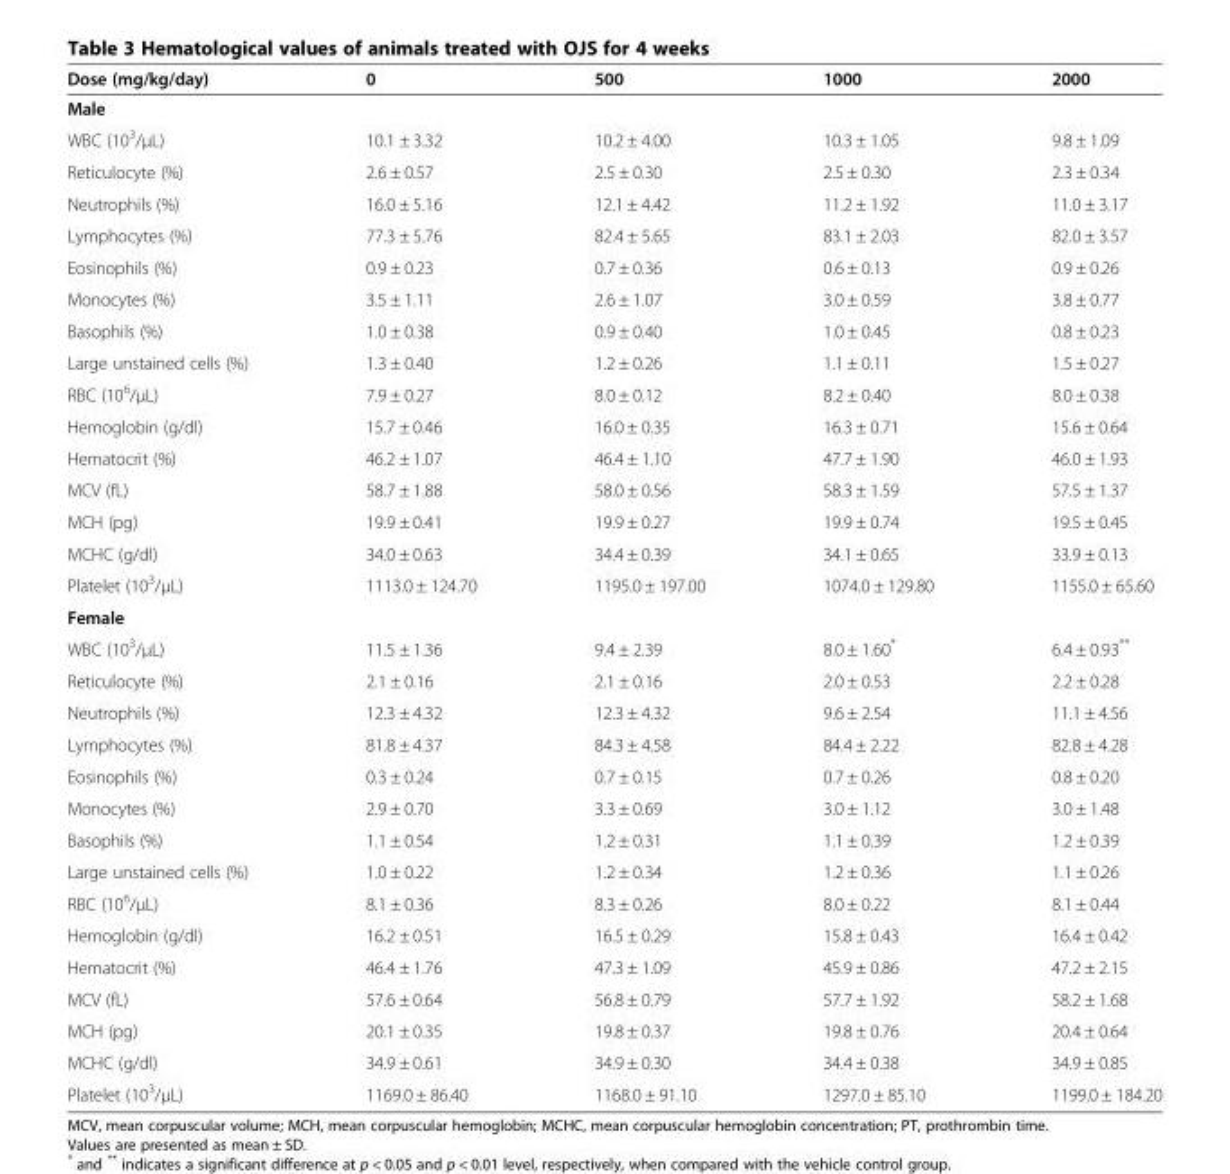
<table><thead><tr><td>Dose (mg/kg/day)</td><td>0</td><td>500</td><td>1000</td><td>2000</td></tr></thead><tbody><tr><td colspan="5">Male</td></tr><tr><td>WBC (10<sup>3</sup>/μL)</td><td>10.1 ± 3.32</td><td>10.2 ± 4.00</td><td>10.3 ± 1.05</td><td>9.8 ± 1.09</td></tr><tr><td>Reticulocyte (%)</td><td>2.6 ± 0.57</td><td>2.5 ± 0.30</td><td>2.5 ± 0.30</td><td>2.3 ± 0.34</td></tr><tr><td>Neutrophils (%)</td><td>16.0 ± 5.16</td><td>12.1 ± 4.42</td><td>11.2 ± 1.92</td><td>11.0 ± 3.17</td></tr><tr><td>Lymphocytes (%)</td><td>77.3 ± 5.76</td><td>82.4 ± 5.65</td><td>83.1 ± 2.03</td><td>82.0 ± 3.57</td></tr><tr><td>Eosinophils (%)</td><td>0.9 ± 0.23</td><td>0.7 ± 0.36</td><td>0.6 ± 0.13</td><td>0.9 ± 0.26</td></tr><tr><td>Monocytes (%)</td><td>3.5 ± 1.11</td><td>2.6 ± 1.07</td><td>3.0 ± 0.59</td><td>3.8 ± 0.77</td></tr><tr><td>Basophils (%)</td><td>1.0 ± 0.38</td><td>0.9 ± 0.40</td><td>1.0 ± 0.45</td><td>0.8 ± 0.23</td></tr><tr><td>Large unstained cells (%)</td><td>1.3 ± 0.40</td><td>1.2 ± 0.26</td><td>1.1 ± 0.11</td><td>1.5 ± 0.27</td></tr><tr><td>RBC (10<sup>6</sup>/μL)</td><td>7.9 ± 0.27</td><td>8.0 ± 0.12</td><td>8.2 ± 0.40</td><td>8.0 ± 0.38</td></tr><tr><td>Hemoglobin (g/dl)</td><td>15.7 ± 0.46</td><td>16.0 ± 0.35</td><td>16.3 ± 0.71</td><td>15.6 ± 0.64</td></tr><tr><td>Hematocrit (%)</td><td>46.2 ± 1.07</td><td>46.4 ± 1.10</td><td>47.7 ± 1.90</td><td>46.0 ± 1.93</td></tr><tr><td>MCV (fL)</td><td>58.7 ± 1.88</td><td>58.0 ± 0.56</td><td>58.3 ± 1.59</td><td>57.5 ± 1.37</td></tr><tr><td>MCH (pg)</td><td>19.9 ± 0.41</td><td>19.9 ± 0.27</td><td>19.9 ± 0.74</td><td>19.5 ± 0.45</td></tr><tr><td>MCHC (g/dl)</td><td>34.0 ± 0.63</td><td>34.4 ± 0.39</td><td>34.1 ± 0.65</td><td>33.9 ± 0.13</td></tr><tr><td>Platelet (10<sup>3</sup>/μL)</td><td>1113.0 ± 124.70</td><td>1195.0 ± 197.00</td><td>1074.0 ± 129.80</td><td>1155.0 ± 65.60</td></tr><tr><td colspan="5">Female</td></tr><tr><td>WBC (10<sup>3</sup>/μL)</td><td>11.5 ± 1.36</td><td>9.4 ± 2.39</td><td>8.0 ± 1.60*</td><td>6.4 ± 0.93**</td></tr><tr><td>Reticulocyte (%)</td><td>2.1 ± 0.16</td><td>2.1 ± 0.16</td><td>2.0 ± 0.53</td><td>2.2 ± 0.28</td></tr><tr><td>Neutrophils (%)</td><td>12.3 ± 4.32</td><td>12.3 ± 4.32</td><td>9.6 ± 2.54</td><td>11.1 ± 4.56</td></tr><tr><td>Lymphocytes (%)</td><td>81.8 ± 4.37</td><td>84.3 ± 4.58</td><td>84.4 ± 2.22</td><td>82.8 ± 4.28</td></tr><tr><td>Eosinophils (%)</td><td>0.3 ± 0.24</td><td>0.7 ± 0.15</td><td>0.7 ± 0.26</td><td>0.8 ± 0.20</td></tr><tr><td>Monocytes (%)</td><td>2.9 ± 0.70</td><td>3.3 ± 0.69</td><td>3.0 ± 1.12</td><td>3.0 ± 1.48</td></tr><tr><td>Basophils (%)</td><td>1.1 ± 0.54</td><td>1.2 ± 0.31</td><td>1.1 ± 0.39</td><td>1.2 ± 0.39</td></tr><tr><td>Large unstained cells (%)</td><td>1.0 ± 0.22</td><td>1.2 ± 0.34</td><td>1.2 ± 0.36</td><td>1.1 ± 0.26</td></tr><tr><td>RBC (10<sup>6</sup>/μL)</td><td>8.1 ± 0.36</td><td>8.3 ± 0.26</td><td>8.0 ± 0.22</td><td>8.1 ± 0.44</td></tr><tr><td>Hemoglobin (g/dl)</td><td>16.2 ± 0.51</td><td>16.5 ± 0.29</td><td>15.8 ± 0.43</td><td>16.4 ± 0.42</td></tr><tr><td>Hematocrit (%)</td><td>46.4 ± 1.76</td><td>47.3 ± 1.09</td><td>45.9 ± 0.86</td><td>47.2 ± 2.15</td></tr><tr><td>MCV (fL)</td><td>57.6 ± 0.64</td><td>56.8 ± 0.79</td><td>57.7 ± 1.92</td><td>58.2 ± 1.68</td></tr><tr><td>MCH (pg)</td><td>20.1 ± 0.35</td><td>19.8 ± 0.37</td><td>19.8 ± 0.76</td><td>20.4 ± 0.64</td></tr><tr><td>MCHC (g/dl)</td><td>34.9 ± 0.61</td><td>34.9 ± 0.30</td><td>34.4 ± 0.38</td><td>34.9 ± 0.85</td></tr><tr><td>Platelet (10<sup>3</sup>/μL)</td><td>1169.0 ± 86.40</td><td>1168.0 ± 91.10</td><td>1297.0 ± 85.10</td><td>1199.0 ± 184.20</td></tr></tbody></table>